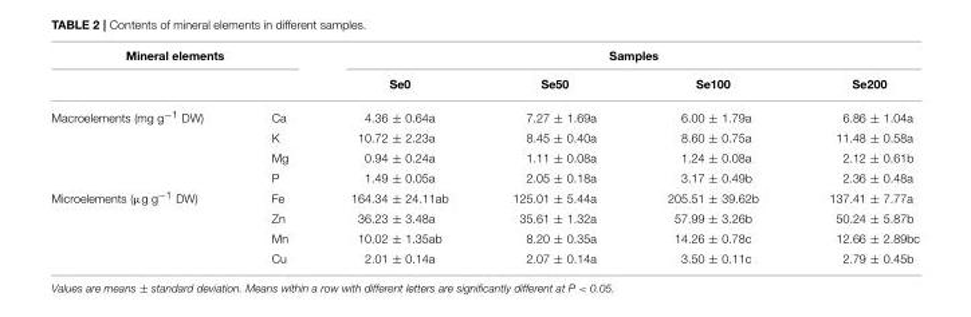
<table><thead><tr><td colspan="2">Mineral elements</td><td colspan="4">Samples</td></tr><tr><td></td><td></td><td>Se0</td><td>Se50</td><td>Se100</td><td>Se200</td></tr></thead><tbody><tr><td rowspan="4">Macroelements (mg g<sup>−1</sup> DW)</td><td>Ca</td><td>4.36 ± 0.64a</td><td>7.27 ± 1.69a</td><td>6.00 ± 1.79a</td><td>6.86 ± 1.04a</td></tr><tr><td>K</td><td>10.72 ± 2.23a</td><td>8.45 ± 0.40a</td><td>8.60 ± 0.75a</td><td>11.48 ± 0.58a</td></tr><tr><td>Mg</td><td>0.94 ± 0.24a</td><td>1.11 ± 0.08a</td><td>1.24 ± 0.08a</td><td>2.12 ± 0.61b</td></tr><tr><td>P</td><td>1.49 ± 0.05a</td><td>2.05 ± 0.18a</td><td>3.17 ± 0.49b</td><td>2.36 ± 0.48a</td></tr><tr><td rowspan="4">Microelements (µg g<sup>−1</sup> DW)</td><td>Fe</td><td>164.34 ± 24.11ab</td><td>125.01 ± 5.44a</td><td>205.51 ± 39.62b</td><td>137.41 ± 7.77a</td></tr><tr><td>Zn</td><td>36.23 ± 3.48a</td><td>35.61 ± 1.32a</td><td>57.99 ± 3.26b</td><td>50.24 ± 5.87b</td></tr><tr><td>Mn</td><td>10.02 ± 1.35ab</td><td>8.20 ± 0.35a</td><td>14.26 ± 0.78c</td><td>12.66 ± 2.89bc</td></tr><tr><td>Cu</td><td>2.01 ± 0.14a</td><td>2.07 ± 0.14a</td><td>3.50 ± 0.11c</td><td>2.79 ± 0.45b</td></tr></tbody></table>